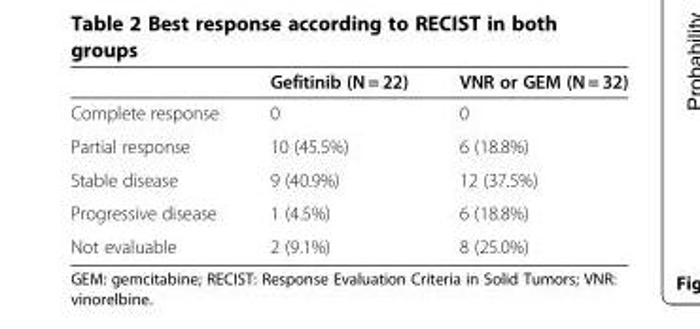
<table><thead><tr><td></td><td>Gefitinib (N = 22)</td><td>VNR or GEM (N = 32)</td></tr></thead><tbody><tr><td>Complete response</td><td>0</td><td>0</td></tr><tr><td>Partial response</td><td>10 (45.5%)</td><td>6 (18.8%)</td></tr><tr><td>Stable disease</td><td>9 (40.9%)</td><td>12 (37.5%)</td></tr><tr><td>Progressive disease</td><td>1 (4.5%)</td><td>6 (18.8%)</td></tr><tr><td>Not evaluable</td><td>2 (9.1%)</td><td>8 (25.0%)</td></tr></tbody></table>